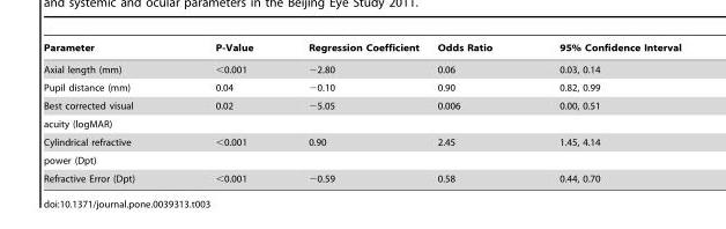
<table><thead><tr><td>Parameter</td><td>P-Value</td><td>Regression Coefficient</td><td>Odds Ratio</td><td>95% Confidence Interval</td></tr></thead><tbody><tr><td>Axial length (mm)</td><td>&lt;0.001</td><td>−2.80</td><td>0.06</td><td>0.03, 0.14</td></tr><tr><td>Pupil distance (mm)</td><td>0.04</td><td>−0.10</td><td>0.90</td><td>0.82, 0.99</td></tr><tr><td>Best corrected visual</td><td>0.02</td><td>−5.05</td><td>0.006</td><td>0.00, 0.51</td></tr><tr><td colspan="5">acuity (logMAR)</td></tr><tr><td>Cylindrical refractive</td><td>&lt;0.001</td><td>0.90</td><td>2.45</td><td>1.45, 4.14</td></tr><tr><td colspan="5">power (Dpt)</td></tr><tr><td>Refractive Error (Dpt)</td><td>&lt;0.001</td><td>−0.59</td><td>0.58</td><td>0.44, 0.70</td></tr></tbody></table>